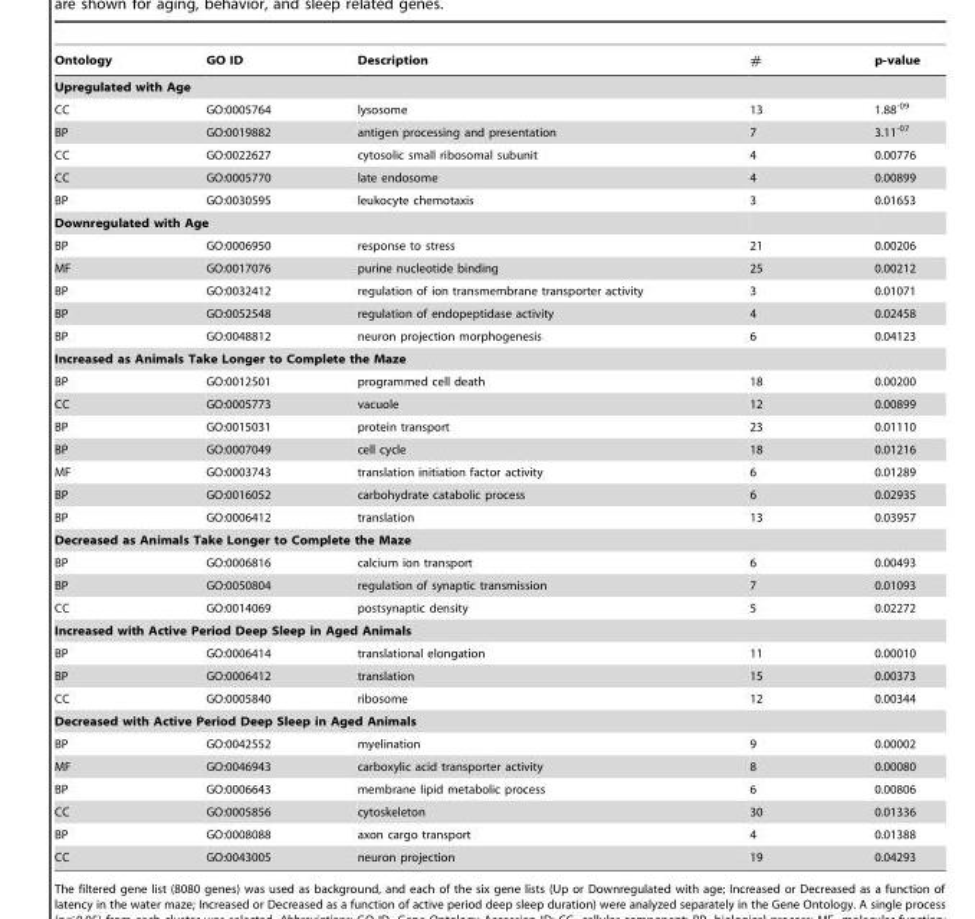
<table><thead><tr><td>Ontology</td><td>GO ID</td><td>Description</td><td>#</td><td>p-value</td></tr></thead><tbody><tr><td colspan="5">Upregulated with Age</td></tr><tr><td>CC</td><td>GO:0005764</td><td>lysosome</td><td>13</td><td>1.88<sup>-09</sup></td></tr><tr><td>BP</td><td>GO:0019882</td><td>antigen processing and presentation</td><td>7</td><td>3.11<sup>-07</sup></td></tr><tr><td>CC</td><td>GO:0022627</td><td>cytosolic small ribosomal subunit</td><td>4</td><td>0.00776</td></tr><tr><td>CC</td><td>GO:0005770</td><td>late endosome</td><td>4</td><td>0.00899</td></tr><tr><td>BP</td><td>GO:0030595</td><td>leukocyte chemotaxis</td><td>3</td><td>0.01653</td></tr><tr><td colspan="5">Downregulated with Age</td></tr><tr><td>BP</td><td>GO:0006950</td><td>response to stress</td><td>21</td><td>0.00206</td></tr><tr><td>MF</td><td>GO:0017076</td><td>purine nucleotide binding</td><td>25</td><td>0.00212</td></tr><tr><td>BP</td><td>GO:0032412</td><td>regulation of ion transmembrane transporter activity</td><td>3</td><td>0.01071</td></tr><tr><td>BP</td><td>GO:0052548</td><td>regulation of endopeptidase activity</td><td>4</td><td>0.02458</td></tr><tr><td>BP</td><td>GO:0048812</td><td>neuron projection morphogenesis</td><td>6</td><td>0.04123</td></tr><tr><td colspan="5">Increased as Animals Take Longer to Complete the Maze</td></tr><tr><td>BP</td><td>GO:0012501</td><td>programmed cell death</td><td>18</td><td>0.00200</td></tr><tr><td>CC</td><td>GO:0005773</td><td>vacuole</td><td>12</td><td>0.00899</td></tr><tr><td>BP</td><td>GO:0015031</td><td>protein transport</td><td>23</td><td>0.01110</td></tr><tr><td>BP</td><td>GO:0007049</td><td>cell cycle</td><td>18</td><td>0.01216</td></tr><tr><td>MF</td><td>GO:0003743</td><td>translation initiation factor activity</td><td>6</td><td>0.01289</td></tr><tr><td>BP</td><td>GO:0016052</td><td>carbohydrate catabolic process</td><td>6</td><td>0.02935</td></tr><tr><td>BP</td><td>GO:0006412</td><td>translation</td><td>13</td><td>0.03957</td></tr><tr><td colspan="5">Decreased as Animals Take Longer to Complete the Maze</td></tr><tr><td>BP</td><td>GO:0006816</td><td>calcium ion transport</td><td>6</td><td>0.00493</td></tr><tr><td>BP</td><td>GO:0050804</td><td>regulation of synaptic transmission</td><td>7</td><td>0.01093</td></tr><tr><td>CC</td><td>GO:0014069</td><td>postsynaptic density</td><td>5</td><td>0.02272</td></tr><tr><td colspan="5">Increased with Active Period Deep Sleep in Aged Animals</td></tr><tr><td>BP</td><td>GO:0006414</td><td>translational elongation</td><td>11</td><td>0.00010</td></tr><tr><td>BP</td><td>GO:0006412</td><td>translation</td><td>15</td><td>0.00373</td></tr><tr><td>CC</td><td>GO:0005840</td><td>ribosome</td><td>12</td><td>0.00344</td></tr><tr><td colspan="5">Decreased with Active Period Deep Sleep in Aged Animals</td></tr><tr><td>BP</td><td>GO:0042552</td><td>myelination</td><td>9</td><td>0.00002</td></tr><tr><td>MF</td><td>GO:0046943</td><td>carboxylic acid transporter activity</td><td>8</td><td>0.00080</td></tr><tr><td>BP</td><td>GO:0006643</td><td>membrane lipid metabolic process</td><td>6</td><td>0.00806</td></tr><tr><td>CC</td><td>GO:0005856</td><td>cytoskeleton</td><td>30</td><td>0.01336</td></tr><tr><td>BP</td><td>GO:0008088</td><td>axon cargo transport</td><td>4</td><td>0.01388</td></tr><tr><td>CC</td><td>GO:0043005</td><td>neuron projection</td><td>19</td><td>0.04293</td></tr></tbody></table>